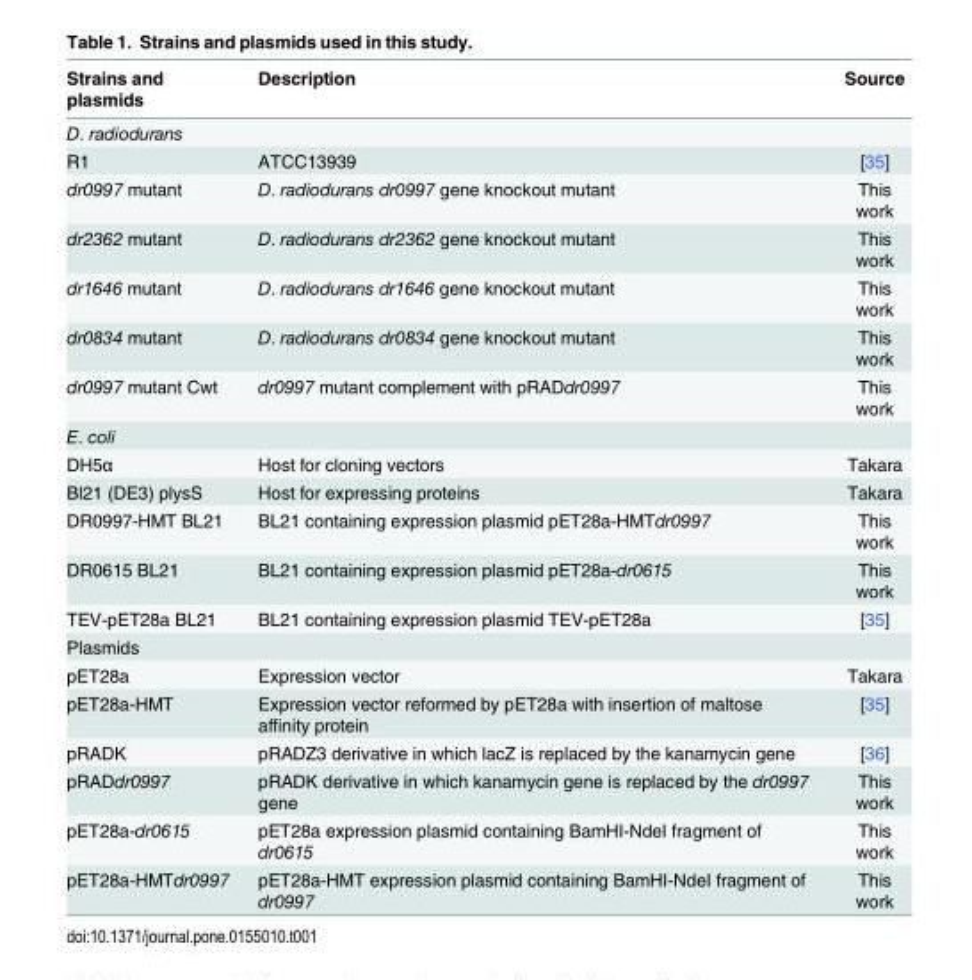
<table><thead><tr><td>Strains and plasmids</td><td>Description</td><td>Source</td></tr></thead><tbody><tr><td colspan="3">D. radiodurans</td></tr><tr><td>R1</td><td>ATCC13939</td><td>[35]</td></tr><tr><td>dr0997 mutant</td><td>D. radiodurans dr0997 gene knockout mutant</td><td>This work</td></tr><tr><td>dr2362 mutant</td><td>D. radiodurans dr2362 gene knockout mutant</td><td>This work</td></tr><tr><td>dr1646 mutant</td><td>D. radiodurans dr1646 gene knockout mutant</td><td>This work</td></tr><tr><td>dr0834 mutant</td><td>D. radiodurans dr0834 gene knockout mutant</td><td>This work</td></tr><tr><td>dr0997 mutant Cwt</td><td>dr0997 mutant complement with pRADdr0997</td><td>This work</td></tr><tr><td colspan="3">E. coli</td></tr><tr><td>DH5α</td><td>Host for cloning vectors</td><td>Takara</td></tr><tr><td>Bl21 (DE3) plysS</td><td>Host for expressing proteins</td><td>Takara</td></tr><tr><td>DR0997-HMT BL21</td><td>BL21 containing expression plasmid pET28a-HMTdr0997</td><td>This work</td></tr><tr><td>DR0615 BL21</td><td>BL21 containing expression plasmid pET28a-dr0615</td><td>This work</td></tr><tr><td>TEV-pET28a BL21</td><td>BL21 containing expression plasmid TEV-pET28a</td><td>[35]</td></tr><tr><td colspan="3">Plasmids</td></tr><tr><td>pET28a</td><td>Expression vector</td><td>Takara</td></tr><tr><td>pET28a-HMT</td><td>Expression vector reformed by pET28a with insertion of maltose affinity protein</td><td>[35]</td></tr><tr><td>pRADK</td><td>pRADZ3 derivative in which lacZ is replaced by the kanamycin gene</td><td>[36]</td></tr><tr><td>pRADdr0997</td><td>pRADK derivative in which kanamycin gene is replaced by the dr0997 gene</td><td>This work</td></tr><tr><td>pET28a-dr0615</td><td>pET28a expression plasmid containing BamHI-NdeI fragment of dr0615</td><td>This work</td></tr><tr><td>pET28a-HMTdr0997</td><td>pET28a-HMT expression plasmid containing BamHI-NdeI fragment of dr0997</td><td>This work</td></tr></tbody></table>